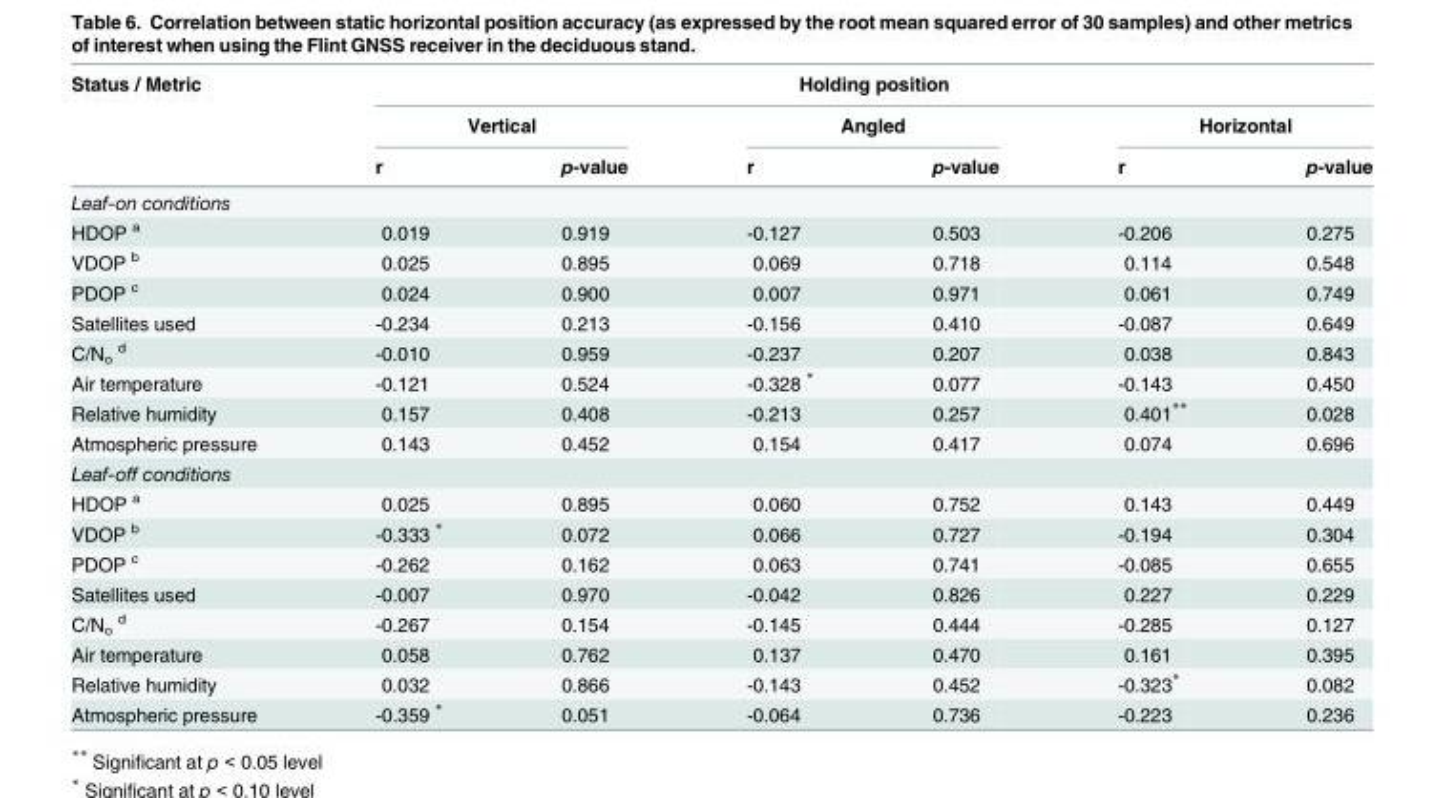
<table><thead><tr><td rowspan="3">Status / Metric</td><td colspan="6">Holding position</td></tr><tr><td colspan="2">Vertical</td><td colspan="2">Angled</td><td colspan="2">Horizontal</td></tr><tr><td>r</td><td>p-value</td><td>r</td><td>p-value</td><td>r</td><td>p-value</td></tr></thead><tbody><tr><td colspan="7">Leaf-on conditions</td></tr><tr><td>HDOP <sup>a</sup></td><td>0.019</td><td>0.919</td><td>-0.127</td><td>0.503</td><td>-0.206</td><td>0.275</td></tr><tr><td>VDOP <sup>b</sup></td><td>0.025</td><td>0.895</td><td>0.069</td><td>0.718</td><td>0.114</td><td>0.548</td></tr><tr><td>PDOP <sup>c</sup></td><td>0.024</td><td>0.900</td><td>0.007</td><td>0.971</td><td>0.061</td><td>0.749</td></tr><tr><td>Satellites used</td><td>-0.234</td><td>0.213</td><td>-0.156</td><td>0.410</td><td>-0.087</td><td>0.649</td></tr><tr><td>C/N<sub>o</sub> <sup>d</sup></td><td>-0.010</td><td>0.959</td><td>-0.237</td><td>0.207</td><td>0.038</td><td>0.843</td></tr><tr><td>Air temperature</td><td>-0.121</td><td>0.524</td><td>-0.328 *</td><td>0.077</td><td>-0.143</td><td>0.450</td></tr><tr><td>Relative humidity</td><td>0.157</td><td>0.408</td><td>-0.213</td><td>0.257</td><td>0.401**</td><td>0.028</td></tr><tr><td>Atmospheric pressure</td><td>0.143</td><td>0.452</td><td>0.154</td><td>0.417</td><td>0.074</td><td>0.696</td></tr><tr><td colspan="7">Leaf-off conditions</td></tr><tr><td>HDOP <sup>a</sup></td><td>0.025</td><td>0.895</td><td>0.060</td><td>0.752</td><td>0.143</td><td>0.449</td></tr><tr><td>VDOP <sup>b</sup></td><td>-0.333 *</td><td>0.072</td><td>0.066</td><td>0.727</td><td>-0.194</td><td>0.304</td></tr><tr><td>PDOP <sup>c</sup></td><td>-0.262</td><td>0.162</td><td>0.063</td><td>0.741</td><td>-0.085</td><td>0.655</td></tr><tr><td>Satellites used</td><td>-0.007</td><td>0.970</td><td>-0.042</td><td>0.826</td><td>0.227</td><td>0.229</td></tr><tr><td>C/N<sub>o</sub> <sup>d</sup></td><td>-0.267</td><td>0.154</td><td>-0.145</td><td>0.444</td><td>-0.285</td><td>0.127</td></tr><tr><td>Air temperature</td><td>0.058</td><td>0.762</td><td>0.137</td><td>0.470</td><td>0.161</td><td>0.395</td></tr><tr><td>Relative humidity</td><td>0.032</td><td>0.866</td><td>-0.143</td><td>0.452</td><td>-0.323*</td><td>0.082</td></tr><tr><td>Atmospheric pressure</td><td>-0.359 *</td><td>0.051</td><td>-0.064</td><td>0.736</td><td>-0.223</td><td>0.236</td></tr></tbody></table>